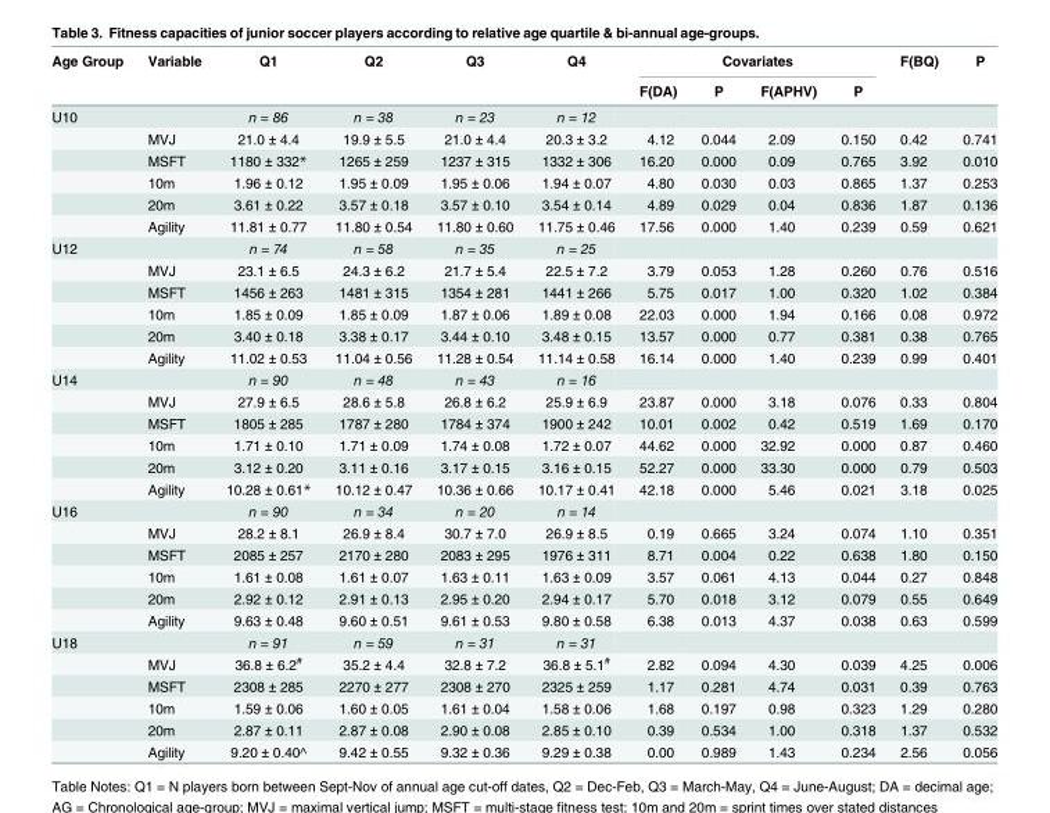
<table><thead><tr><td rowspan="2">Age Group</td><td rowspan="2">Variable</td><td rowspan="2">Q1</td><td rowspan="2">Q2</td><td rowspan="2">Q3</td><td rowspan="2">Q4</td><td colspan="4">Covariates</td><td rowspan="2">F(BQ)</td><td rowspan="2">P</td></tr><tr><td>F(DA)</td><td>P</td><td>F(APHV)</td><td>P</td></tr></thead><tbody><tr><td rowspan="6">U10</td><td></td><td>n = 86</td><td>n = 38</td><td>n = 23</td><td>n = 12</td><td></td><td></td><td></td><td></td><td></td><td></td></tr><tr><td>MVJ</td><td>21.0 ± 4.4</td><td>19.9 ± 5.5</td><td>21.0 ± 4.4</td><td>20.3 ± 3.2</td><td>4.12</td><td>0.044</td><td>2.09</td><td>0.150</td><td>0.42</td><td>0.741</td></tr><tr><td>MSFT</td><td>1180 ± 332*</td><td>1265 ± 259</td><td>1237 ± 315</td><td>1332 ± 306</td><td>16.20</td><td>0.000</td><td>0.09</td><td>0.765</td><td>3.92</td><td>0.010</td></tr><tr><td>10m</td><td>1.96 ± 0.12</td><td>1.95 ± 0.09</td><td>1.95 ± 0.06</td><td>1.94 ± 0.07</td><td>4.80</td><td>0.030</td><td>0.03</td><td>0.865</td><td>1.37</td><td>0.253</td></tr><tr><td>20m</td><td>3.61 ± 0.22</td><td>3.57 ± 0.18</td><td>3.57 ± 0.10</td><td>3.54 ± 0.14</td><td>4.89</td><td>0.029</td><td>0.04</td><td>0.836</td><td>1.87</td><td>0.136</td></tr><tr><td>Agility</td><td>11.81 ± 0.77</td><td>11.80 ± 0.54</td><td>11.80 ± 0.60</td><td>11.75 ± 0.46</td><td>17.56</td><td>0.000</td><td>1.40</td><td>0.239</td><td>0.59</td><td>0.621</td></tr><tr><td rowspan="6">U12</td><td></td><td>n = 74</td><td>n = 58</td><td>n = 35</td><td>n = 25</td><td></td><td></td><td></td><td></td><td></td><td></td></tr><tr><td>MVJ</td><td>23.1 ± 6.5</td><td>24.3 ± 6.2</td><td>21.7 ± 5.4</td><td>22.5 ± 7.2</td><td>3.79</td><td>0.053</td><td>1.28</td><td>0.260</td><td>0.76</td><td>0.516</td></tr><tr><td>MSFT</td><td>1456 ± 263</td><td>1481 ± 315</td><td>1354 ± 281</td><td>1441 ± 266</td><td>5.75</td><td>0.017</td><td>1.00</td><td>0.320</td><td>1.02</td><td>0.384</td></tr><tr><td>10m</td><td>1.85 ± 0.09</td><td>1.85 ± 0.09</td><td>1.87 ± 0.06</td><td>1.89 ± 0.08</td><td>22.03</td><td>0.000</td><td>1.94</td><td>0.166</td><td>0.08</td><td>0.972</td></tr><tr><td>20m</td><td>3.40 ± 0.18</td><td>3.38 ± 0.17</td><td>3.44 ± 0.10</td><td>3.48 ± 0.15</td><td>13.57</td><td>0.000</td><td>0.77</td><td>0.381</td><td>0.38</td><td>0.765</td></tr><tr><td>Agility</td><td>11.02 ± 0.53</td><td>11.04 ± 0.56</td><td>11.28 ± 0.54</td><td>11.14 ± 0.58</td><td>16.14</td><td>0.000</td><td>1.40</td><td>0.239</td><td>0.99</td><td>0.401</td></tr><tr><td rowspan="6">U14</td><td></td><td>n = 90</td><td>n = 48</td><td>n = 43</td><td>n = 16</td><td></td><td></td><td></td><td></td><td></td><td></td></tr><tr><td>MVJ</td><td>27.9 ± 6.5</td><td>28.6 ± 5.8</td><td>26.8 ± 6.2</td><td>25.9 ± 6.9</td><td>23.87</td><td>0.000</td><td>3.18</td><td>0.076</td><td>0.33</td><td>0.804</td></tr><tr><td>MSFT</td><td>1805 ± 285</td><td>1787 ± 280</td><td>1784 ± 374</td><td>1900 ± 242</td><td>10.01</td><td>0.002</td><td>0.42</td><td>0.519</td><td>1.69</td><td>0.170</td></tr><tr><td>10m</td><td>1.71 ± 0.10</td><td>1.71 ± 0.09</td><td>1.74 ± 0.08</td><td>1.72 ± 0.07</td><td>44.62</td><td>0.000</td><td>32.92</td><td>0.000</td><td>0.87</td><td>0.460</td></tr><tr><td>20m</td><td>3.12 ± 0.20</td><td>3.11 ± 0.16</td><td>3.17 ± 0.15</td><td>3.16 ± 0.15</td><td>52.27</td><td>0.000</td><td>33.30</td><td>0.000</td><td>0.79</td><td>0.503</td></tr><tr><td>Agility</td><td>10.28 ± 0.61*</td><td>10.12 ± 0.47</td><td>10.36 ± 0.66</td><td>10.17 ± 0.41</td><td>42.18</td><td>0.000</td><td>5.46</td><td>0.021</td><td>3.18</td><td>0.025</td></tr><tr><td rowspan="6">U16</td><td></td><td>n = 90</td><td>n = 34</td><td>n = 20</td><td>n = 14</td><td></td><td></td><td></td><td></td><td></td><td></td></tr><tr><td>MVJ</td><td>28.2 ± 8.1</td><td>26.9 ± 8.4</td><td>30.7 ± 7.0</td><td>26.9 ± 8.5</td><td>0.19</td><td>0.665</td><td>3.24</td><td>0.074</td><td>1.10</td><td>0.351</td></tr><tr><td>MSFT</td><td>2085 ± 257</td><td>2170 ± 280</td><td>2083 ± 295</td><td>1976 ± 311</td><td>8.71</td><td>0.004</td><td>0.22</td><td>0.638</td><td>1.80</td><td>0.150</td></tr><tr><td>10m</td><td>1.61 ± 0.08</td><td>1.61 ± 0.07</td><td>1.63 ± 0.11</td><td>1.63 ± 0.09</td><td>3.57</td><td>0.061</td><td>4.13</td><td>0.044</td><td>0.27</td><td>0.848</td></tr><tr><td>20m</td><td>2.92 ± 0.12</td><td>2.91 ± 0.13</td><td>2.95 ± 0.20</td><td>2.94 ± 0.17</td><td>5.70</td><td>0.018</td><td>3.12</td><td>0.079</td><td>0.55</td><td>0.649</td></tr><tr><td>Agility</td><td>9.63 ± 0.48</td><td>9.60 ± 0.51</td><td>9.61 ± 0.53</td><td>9.80 ± 0.58</td><td>6.38</td><td>0.013</td><td>4.37</td><td>0.038</td><td>0.63</td><td>0.599</td></tr><tr><td rowspan="6">U18</td><td></td><td>n = 91</td><td>n = 59</td><td>n = 31</td><td>n = 31</td><td></td><td></td><td></td><td></td><td></td><td></td></tr><tr><td>MVJ</td><td>36.8 ± 6.2<sup>#</sup></td><td>35.2 ± 4.4</td><td>32.8 ± 7.2</td><td>36.8 ± 5.1<sup>#</sup></td><td>2.82</td><td>0.094</td><td>4.30</td><td>0.039</td><td>4.25</td><td>0.006</td></tr><tr><td>MSFT</td><td>2308 ± 285</td><td>2270 ± 277</td><td>2308 ± 270</td><td>2325 ± 259</td><td>1.17</td><td>0.281</td><td>4.74</td><td>0.031</td><td>0.39</td><td>0.763</td></tr><tr><td>10m</td><td>1.59 ± 0.06</td><td>1.60 ± 0.05</td><td>1.61 ± 0.04</td><td>1.58 ± 0.06</td><td>1.68</td><td>0.197</td><td>0.98</td><td>0.323</td><td>1.29</td><td>0.280</td></tr><tr><td>20m</td><td>2.87 ± 0.11</td><td>2.87 ± 0.08</td><td>2.90 ± 0.08</td><td>2.85 ± 0.10</td><td>0.39</td><td>0.534</td><td>1.00</td><td>0.318</td><td>1.37</td><td>0.532</td></tr><tr><td>Agility</td><td>9.20 ± 0.40^</td><td>9.42 ± 0.55</td><td>9.32 ± 0.36</td><td>9.29 ± 0.38</td><td>0.00</td><td>0.989</td><td>1.43</td><td>0.234</td><td>2.56</td><td>0.056</td></tr></tbody></table>